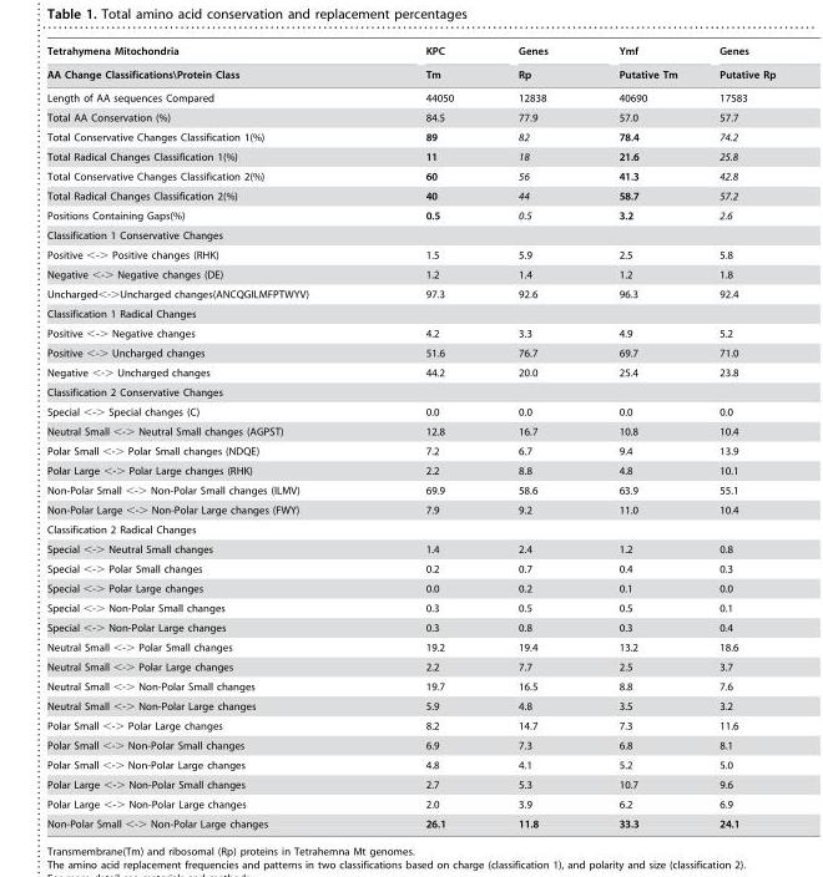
<table><thead><tr><td rowspan="2">Tetrahymena Mitochondria AA Change Classifications\Protein Class</td><td rowspan="2">KPC Tm</td><td rowspan="2">Genes Rp</td><td rowspan="2">Ymf Putative Tm</td><td rowspan="2">Genes Putative Rp</td></tr><tr></tr></thead><tbody><tr><td>Length of AA sequences Compared</td><td>44050</td><td>12838</td><td>40690</td><td>17583</td></tr><tr><td>Total AA Conservation (%)</td><td>84.5</td><td>77.9</td><td>57.0</td><td>57.7</td></tr><tr><td>Total Conservative Changes Classification 1(%)</td><td>89</td><td>82</td><td>78.4</td><td>74.2</td></tr><tr><td>Total Radical Changes Classification 1(%)</td><td>11</td><td>18</td><td>21.6</td><td>25.8</td></tr><tr><td>Total Conservative Changes Classification 2(%)</td><td>60</td><td>56</td><td>41.3</td><td>42.8</td></tr><tr><td>Total Radical Changes Classification 2(%)</td><td>40</td><td>44</td><td>58.7</td><td>57.2</td></tr><tr><td>Positions Containing Gaps(%)</td><td>0.5</td><td>0.5</td><td>3.2</td><td>2.6</td></tr><tr><td colspan="5">Classification 1 Conservative Changes</td></tr><tr><td>Positive &lt;-&gt; Positive changes (RHK)</td><td>1.5</td><td>5.9</td><td>2.5</td><td>5.8</td></tr><tr><td>Negative &lt;-&gt; Negative changes (DE)</td><td>1.2</td><td>1.4</td><td>1.2</td><td>1.8</td></tr><tr><td>Uncharged&lt;-&gt;Uncharged changes(ANCQGILMFPTWYV)</td><td>97.3</td><td>92.6</td><td>96.3</td><td>92.4</td></tr><tr><td colspan="5">Classification 1 Radical Changes</td></tr><tr><td>Positive &lt;-&gt; Negative changes</td><td>4.2</td><td>3.3</td><td>4.9</td><td>5.2</td></tr><tr><td>Positive &lt;-&gt; Uncharged changes</td><td>51.6</td><td>76.7</td><td>69.7</td><td>71.0</td></tr><tr><td>Negative &lt;-&gt; Uncharged changes</td><td>44.2</td><td>20.0</td><td>25.4</td><td>23.8</td></tr><tr><td colspan="5">Classification 2 Conservative Changes</td></tr><tr><td>Special &lt;-&gt; Special changes (C)</td><td>0.0</td><td>0.0</td><td>0.0</td><td>0.0</td></tr><tr><td>Neutral Small &lt;-&gt; Neutral Small changes (AGPST)</td><td>12.8</td><td>16.7</td><td>10.8</td><td>10.4</td></tr><tr><td>Polar Small &lt;-&gt; Polar Small changes (NDQE)</td><td>7.2</td><td>6.7</td><td>9.4</td><td>13.9</td></tr><tr><td>Polar Large &lt;-&gt; Polar Large changes (RHK)</td><td>2.2</td><td>8.8</td><td>4.8</td><td>10.1</td></tr><tr><td>Non-Polar Small &lt;-&gt; Non-Polar Small changes (ILMV)</td><td>69.9</td><td>58.6</td><td>63.9</td><td>55.1</td></tr><tr><td>Non-Polar Large &lt;-&gt; Non-Polar Large changes (FWY)</td><td>7.9</td><td>9.2</td><td>11.0</td><td>10.4</td></tr><tr><td colspan="5">Classification 2 Radical Changes</td></tr><tr><td>Special &lt;-&gt; Neutral Small changes</td><td>1.4</td><td>2.4</td><td>1.2</td><td>0.8</td></tr><tr><td>Special &lt;-&gt; Polar Small changes</td><td>0.2</td><td>0.7</td><td>0.4</td><td>0.3</td></tr><tr><td>Special &lt;-&gt; Polar Large changes</td><td>0.0</td><td>0.2</td><td>0.1</td><td>0.0</td></tr><tr><td>Special &lt;-&gt; Non-Polar Small changes</td><td>0.3</td><td>0.5</td><td>0.5</td><td>0.1</td></tr><tr><td>Special &lt;-&gt; Non-Polar Large changes</td><td>0.3</td><td>0.8</td><td>0.3</td><td>0.4</td></tr><tr><td>Neutral Small &lt;-&gt; Polar Small changes</td><td>19.2</td><td>19.4</td><td>13.2</td><td>18.6</td></tr><tr><td>Neutral Small &lt;-&gt; Polar Large changes</td><td>2.2</td><td>7.7</td><td>2.5</td><td>3.7</td></tr><tr><td>Neutral Small &lt;-&gt; Non-Polar Small changes</td><td>19.7</td><td>16.5</td><td>8.8</td><td>7.6</td></tr><tr><td>Neutral Small &lt;-&gt; Non-Polar Large changes</td><td>5.9</td><td>4.8</td><td>3.5</td><td>3.2</td></tr><tr><td>Polar Small &lt;-&gt; Polar Large changes</td><td>8.2</td><td>14.7</td><td>7.3</td><td>11.6</td></tr><tr><td>Polar Small &lt;-&gt; Non-Polar Small changes</td><td>6.9</td><td>7.3</td><td>6.8</td><td>8.1</td></tr><tr><td>Polar Small &lt;-&gt; Non-Polar Large changes</td><td>4.8</td><td>4.1</td><td>5.2</td><td>5.0</td></tr><tr><td>Polar Large &lt;-&gt; Non-Polar Small changes</td><td>2.7</td><td>5.3</td><td>10.7</td><td>9.6</td></tr><tr><td>Polar Large &lt;-&gt; Non-Polar Large changes</td><td>2.0</td><td>3.9</td><td>6.2</td><td>6.9</td></tr><tr><td>Non-Polar Small &lt;-&gt; Non-Polar Large changes</td><td>26.1</td><td>11.8</td><td>33.3</td><td>24.1</td></tr></tbody></table>